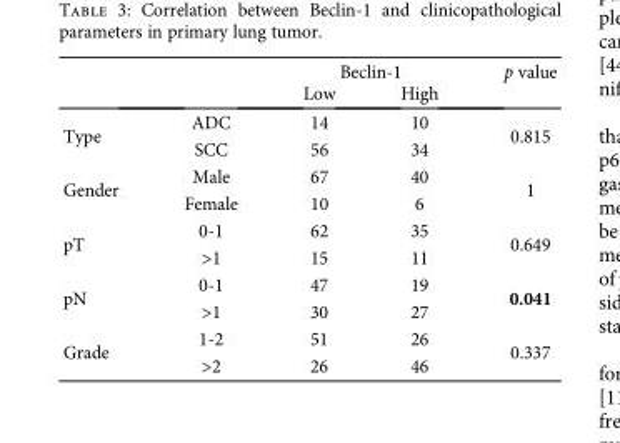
<table><thead><tr><td rowspan="2"></td><td rowspan="2"></td><td colspan="2">Beclin-1</td><td rowspan="2">p value</td></tr><tr><td>Low</td><td>High</td></tr></thead><tbody><tr><td rowspan="2">Type</td><td>ADC</td><td>14</td><td>10</td><td rowspan="2">0.815</td></tr><tr><td>SCC</td><td>56</td><td>34</td></tr><tr><td rowspan="2">Gender</td><td>Male</td><td>67</td><td>40</td><td rowspan="2">1</td></tr><tr><td>Female</td><td>10</td><td>6</td></tr><tr><td rowspan="2">pT</td><td>0-1</td><td>62</td><td>35</td><td rowspan="2">0.649</td></tr><tr><td>&gt;1</td><td>15</td><td>11</td></tr><tr><td rowspan="2">pN</td><td>0-1</td><td>47</td><td>19</td><td rowspan="2">0.041</td></tr><tr><td>&gt;1</td><td>30</td><td>27</td></tr><tr><td rowspan="2">Grade</td><td>1-2</td><td>51</td><td>26</td><td rowspan="2">0.337</td></tr><tr><td>&gt;2</td><td>26</td><td>46</td></tr></tbody></table>